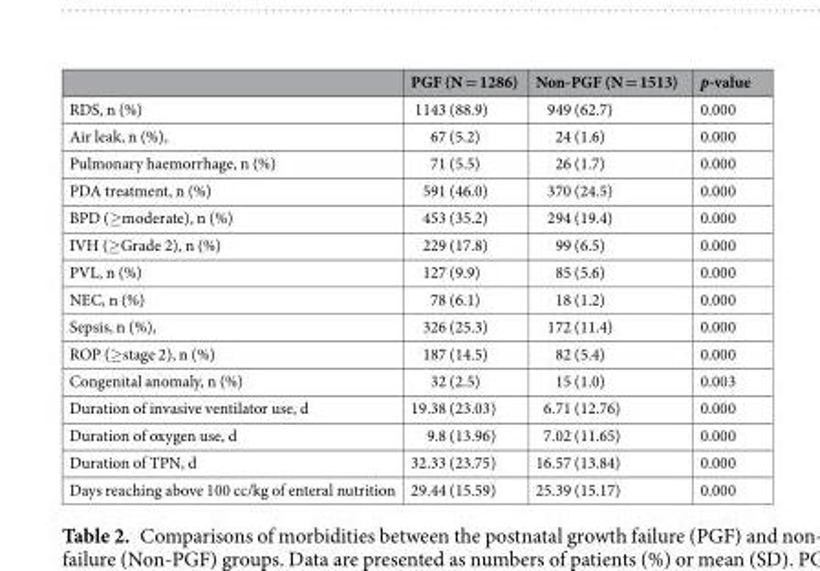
<table><thead><tr><td></td><td>PGF (N = 1286)</td><td>Non-PGF (N = 1513)</td><td>p-value</td></tr></thead><tbody><tr><td>RDS, n (%)</td><td>1143 (88.9)</td><td>949 (62.7)</td><td>0.000</td></tr><tr><td>Air leak, n (%),</td><td>67 (5.2)</td><td>24 (1.6)</td><td>0.000</td></tr><tr><td>Pulmonary haemorrhage, n (%)</td><td>71 (5.5)</td><td>26 (1.7)</td><td>0.000</td></tr><tr><td>PDA treatment, n (%)</td><td>591 (46.0)</td><td>370 (24.5)</td><td>0.000</td></tr><tr><td>BPD (≥moderate), n (%)</td><td>453 (35.2)</td><td>294 (19.4)</td><td>0.000</td></tr><tr><td>IVH (≥Grade 2), n (%)</td><td>229 (17.8)</td><td>99 (6.5)</td><td>0.000</td></tr><tr><td>PVL, n (%)</td><td>127 (9.9)</td><td>85 (5.6)</td><td>0.000</td></tr><tr><td>NEC, n (%)</td><td>78 (6.1)</td><td>18 (1.2)</td><td>0.000</td></tr><tr><td>Sepsis, n (%),</td><td>326 (25.3)</td><td>172 (11.4)</td><td>0.000</td></tr><tr><td>ROP (≥stage 2), n (%)</td><td>187 (14.5)</td><td>82 (5.4)</td><td>0.000</td></tr><tr><td>Congenital anomaly, n (%)</td><td>32 (2.5)</td><td>15 (1.0)</td><td>0.003</td></tr><tr><td>Duration of invasive ventilator use, d</td><td>19.38 (23.03)</td><td>6.71 (12.76)</td><td>0.000</td></tr><tr><td>Duration of oxygen use, d</td><td>9.8 (13.96)</td><td>7.02 (11.65)</td><td>0.000</td></tr><tr><td>Duration of TPN, d</td><td>32.33 (23.75)</td><td>16.57 (13.84)</td><td>0.000</td></tr><tr><td>Days reaching above 100 cc/kg of enteral nutrition</td><td>29.44 (15.59)</td><td>25.39 (15.17)</td><td>0.000</td></tr></tbody></table>